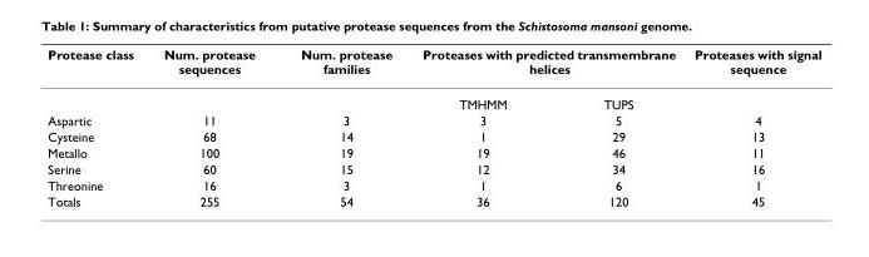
<table><thead><tr><td rowspan="2">Protease class</td><td rowspan="2">Num. protease sequences</td><td rowspan="2">Num. protease families</td><td colspan="2">Proteases with predicted transmembrane helices</td><td rowspan="2">Proteases with signal sequence</td></tr><tr><td>TMHMM</td><td>TUPS</td></tr></thead><tbody><tr><td>Aspartic</td><td>11</td><td>3</td><td>3</td><td>5</td><td>4</td></tr><tr><td>Cysteine</td><td>68</td><td>14</td><td>1</td><td>29</td><td>13</td></tr><tr><td>Metallo</td><td>100</td><td>19</td><td>19</td><td>46</td><td>11</td></tr><tr><td>Serine</td><td>60</td><td>15</td><td>12</td><td>34</td><td>16</td></tr><tr><td>Threonine</td><td>16</td><td>3</td><td>1</td><td>6</td><td>1</td></tr><tr><td>Totals</td><td>255</td><td>54</td><td>36</td><td>120</td><td>45</td></tr></tbody></table>